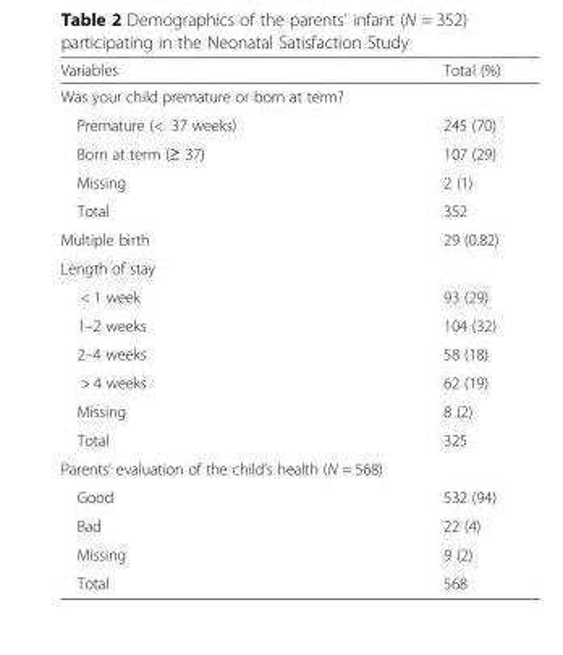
<table><thead><tr><td>Variables</td><td>Total (%)</td></tr></thead><tbody><tr><td colspan="2">Was your child premature or born at term?</td></tr><tr><td>Premature (&lt; 37 weeks)</td><td>245 (70)</td></tr><tr><td>Born at term (≥ 37)</td><td>107 (29)</td></tr><tr><td>Missing</td><td>2 (1)</td></tr><tr><td>Total</td><td>352</td></tr><tr><td>Multiple birth</td><td>29 (0.82)</td></tr><tr><td colspan="2">Length of stay</td></tr><tr><td>&lt; 1 week</td><td>93 (29)</td></tr><tr><td>1–2 weeks</td><td>104 (32)</td></tr><tr><td>2–4 weeks</td><td>58 (18)</td></tr><tr><td>&gt; 4 weeks</td><td>62 (19)</td></tr><tr><td>Missing</td><td>8 (2)</td></tr><tr><td>Total</td><td>325</td></tr><tr><td colspan="2">Parents’ evaluation of the child’s health (N = 568)</td></tr><tr><td>Good</td><td>532 (94)</td></tr><tr><td>Bad</td><td>22 (4)</td></tr><tr><td>Missing</td><td>9 (2)</td></tr><tr><td>Total</td><td>568</td></tr></tbody></table>